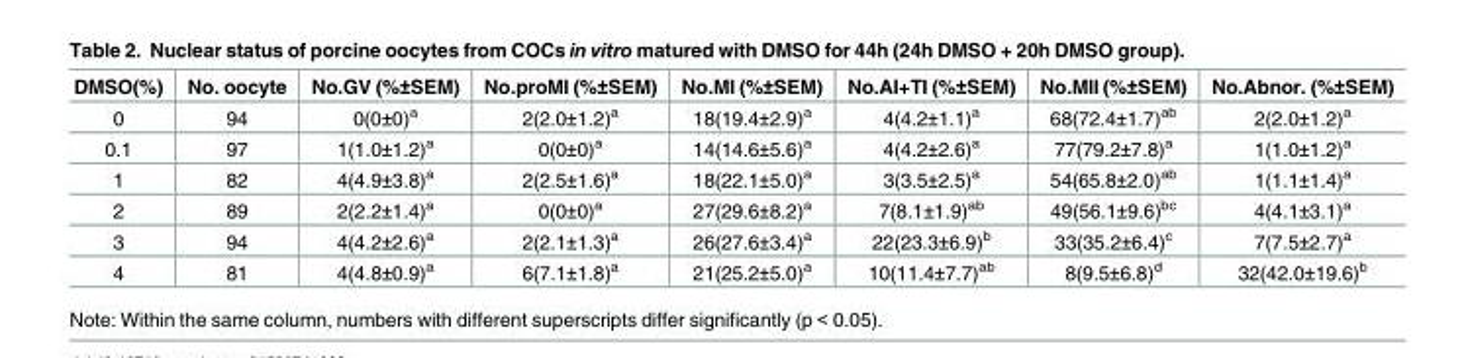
<table><thead><tr><td>DMSO(%)</td><td>No. oocyte</td><td>No.GV (%±SEM)</td><td>No.proMI (%±SEM)</td><td>No.MI (%±SEM)</td><td>No.AI+TI (%±SEM)</td><td>No.MII (%±SEM)</td><td>No.Abnor. (%±SEM)</td></tr></thead><tbody><tr><td>0</td><td>94</td><td>0(0±0)<sup>a</sup></td><td>2(2.0±1.2)<sup>a</sup></td><td>18(19.4±2.9)<sup>a</sup></td><td>4(4.2±1.1)<sup>a</sup></td><td>68(72.4±1.7)<sup>ab</sup></td><td>2(2.0±1.2)<sup>a</sup></td></tr><tr><td>0.1</td><td>97</td><td>1(1.0±1.2)<sup>a</sup></td><td>0(0±0)<sup>a</sup></td><td>14(14.6±5.6)<sup>a</sup></td><td>4(4.2±2.6)<sup>a</sup></td><td>77(79.2±7.8)<sup>a</sup></td><td>1(1.0±1.2)<sup>a</sup></td></tr><tr><td>1</td><td>82</td><td>4(4.9±3.8)<sup>a</sup></td><td>2(2.5±1.6)<sup>a</sup></td><td>18(22.1±5.0)<sup>a</sup></td><td>3(3.5±2.5)<sup>a</sup></td><td>54(65.8±2.0)<sup>ab</sup></td><td>1(1.1±1.4)<sup>a</sup></td></tr><tr><td>2</td><td>89</td><td>2(2.2±1.4)<sup>a</sup></td><td>0(0±0)<sup>a</sup></td><td>27(29.6±8.2)<sup>a</sup></td><td>7(8.1±1.9)<sup>ab</sup></td><td>49(56.1±9.6)<sup>bc</sup></td><td>4(4.1±3.1)<sup>a</sup></td></tr><tr><td>3</td><td>94</td><td>4(4.2±2.6)<sup>a</sup></td><td>2(2.1±1.3)<sup>a</sup></td><td>26(27.6±3.4)<sup>a</sup></td><td>22(23.3±6.9)<sup>b</sup></td><td>33(35.2±6.4)<sup>c</sup></td><td>7(7.5±2.7)<sup>a</sup></td></tr><tr><td>4</td><td>81</td><td>4(4.8±0.9)<sup>a</sup></td><td>6(7.1±1.8)<sup>a</sup></td><td>21(25.2±5.0)<sup>a</sup></td><td>10(11.4±7.7)<sup>ab</sup></td><td>8(9.5±6.8)<sup>d</sup></td><td>32(42.0±19.6)<sup>b</sup></td></tr></tbody></table>